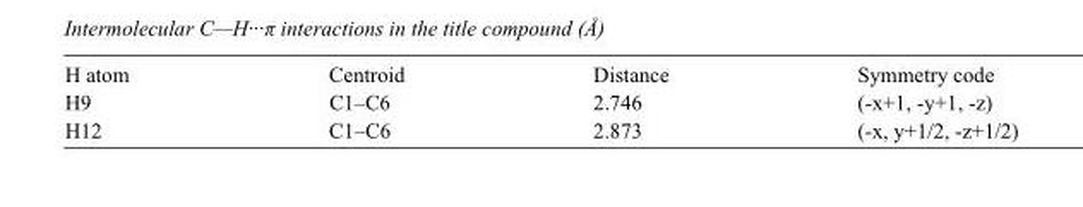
<table><tbody><tr><td>H atom</td><td>Centroid</td><td>Distance</td><td>Symmetry code</td></tr><tr><td>H9</td><td>C1–C6</td><td>2.746</td><td>(-x+1, -y+1, -z)</td></tr><tr><td>H12</td><td>C1–C6</td><td>2.873</td><td>(-x, y+1/2, -z+1/2)</td></tr></tbody></table>